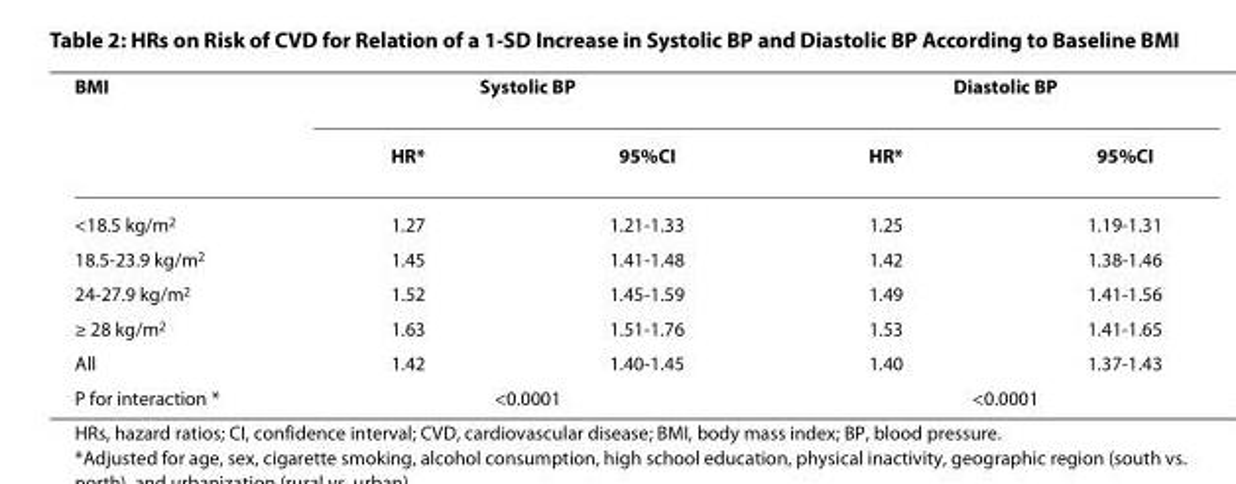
<table><thead><tr><td rowspan="2">BMI</td><td colspan="2">Systolic BP</td><td colspan="2">Diastolic BP</td></tr><tr><td>HR*</td><td>95%CI</td><td>HR*</td><td>95%CI</td></tr></thead><tbody><tr><td>&lt;18.5 kg/m<sup>2</sup></td><td>1.27</td><td>1.21-1.33</td><td>1.25</td><td>1.19-1.31</td></tr><tr><td>18.5-23.9 kg/m<sup>2</sup></td><td>1.45</td><td>1.41-1.48</td><td>1.42</td><td>1.38-1.46</td></tr><tr><td>24-27.9 kg/m<sup>2</sup></td><td>1.52</td><td>1.45-1.59</td><td>1.49</td><td>1.41-1.56</td></tr><tr><td>≥ 28 kg/m<sup>2</sup></td><td>1.63</td><td>1.51-1.76</td><td>1.53</td><td>1.41-1.65</td></tr><tr><td>All</td><td>1.42</td><td>1.40-1.45</td><td>1.40</td><td>1.37-1.43</td></tr><tr><td>P for interaction *</td><td colspan="2">&lt;0.0001</td><td colspan="2">&lt;0.0001</td></tr></tbody></table>